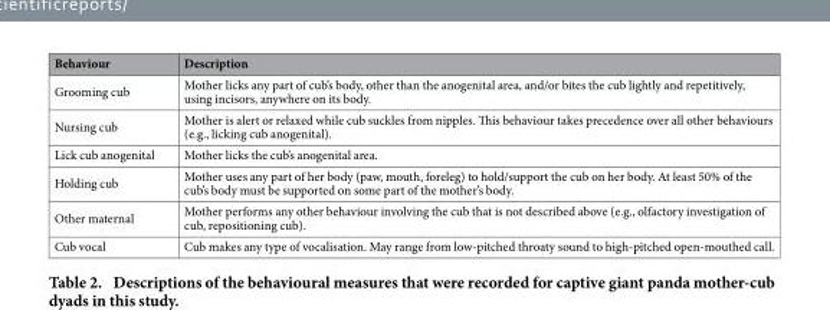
<table><thead><tr><td>Behaviour</td><td>Description</td></tr></thead><tbody><tr><td>Grooming cub</td><td>Mother licks any part of cub’s body, other than the anogenital area, and/or bites the cub lightly and repetitively, using incisors, anywhere on its body.</td></tr><tr><td>Nursing cub</td><td>Mother is alert or relaxed while cub suckles from nipples. This behaviour takes precedence over all other behaviours (e.g., licking cub anogenital).</td></tr><tr><td>Lick cub anogenital</td><td>Mother licks the cub’s anogenital area.</td></tr><tr><td>Holding cub</td><td>Mother uses any part of her body (paw, mouth, foreleg) to hold/support the cub on her body. At least 50% of the cub’s body must be supported on some part of the mother’s body.</td></tr><tr><td>Other maternal</td><td>Mother performs any other behaviour involving the cub that is not described above (e.g., olfactory investigation of cub, repositioning cub).</td></tr><tr><td>Cub vocal</td><td>Cub makes any type of vocalisation. May range from low-pitched throaty sound to high-pitched open-mouthed call.</td></tr></tbody></table>